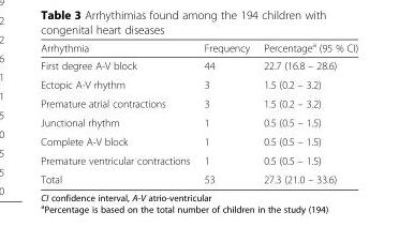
<table><thead><tr><td>Arrhythmia</td><td>Frequency</td><td>Percentage<sup>a</sup> (95 % CI)</td></tr></thead><tbody><tr><td>First degree A-V block</td><td>44</td><td>22.7 (16.8 – 28.6)</td></tr><tr><td>Ectopic A-V rhythm</td><td>3</td><td>1.5 (0.2 – 3.2)</td></tr><tr><td>Premature atrial contractions</td><td>3</td><td>1.5 (0.2 – 3.2)</td></tr><tr><td>Junctional rhythm</td><td>1</td><td>0.5 (0.5 – 1.5)</td></tr><tr><td>Complete A-V block</td><td>1</td><td>0.5 (0.5 – 1.5)</td></tr><tr><td>Premature ventricular contractions</td><td>1</td><td>0.5 (0.5 – 1.5)</td></tr><tr><td>Total</td><td>53</td><td>27.3 (21.0 – 33.6)</td></tr></tbody></table>